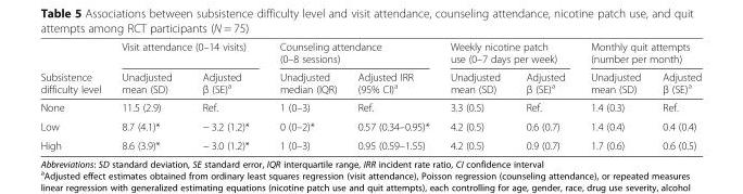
<table><thead><tr><td rowspan="2">Subsistence difficulty level</td><td colspan="2">Visit attendance (0–14 visits)</td><td colspan="2">Counseling attendance (0–8 sessions)</td><td colspan="2">Weekly nicotine patch use (0–7 days per week)</td><td colspan="2">Monthly quit attempts (number per month)</td></tr><tr><td>Unadjusted mean (SD)</td><td>Adjusted β (SE)<sup>a</sup></td><td>Unadjusted median (IQR)</td><td>Adjusted IRR (95% CI)<sup>a</sup></td><td>Unadjusted mean (SD)</td><td>Adjusted β (SE)<sup>a</sup></td><td>Unadjusted mean (SD)</td><td>Adjusted β (SE)<sup>a</sup></td></tr></thead><tbody><tr><td>None</td><td>11.5 (2.9)</td><td>Ref.</td><td>1 (0–3)</td><td>Ref.</td><td>3.3 (0.5)</td><td>Ref.</td><td>1.4 (0.3)</td><td>Ref.</td></tr><tr><td>Low</td><td>8.7 (4.1)*</td><td>− 3.2 (1.2)*</td><td>0 (0–2)*</td><td>0.57 (0.34–0.95)*</td><td>4.2 (0.5)</td><td>0.6 (0.7)</td><td>1.4 (0.4)</td><td>0.4 (0.4)</td></tr><tr><td>High</td><td>8.6 (3.9)*</td><td>− 3.0 (1.2)*</td><td>1 (0–3)</td><td>0.95 (0.59–1.55)</td><td>4.2 (0.5)</td><td>0.9 (0.7)</td><td>1.7 (0.6)</td><td>0.6 (0.5)</td></tr></tbody></table>